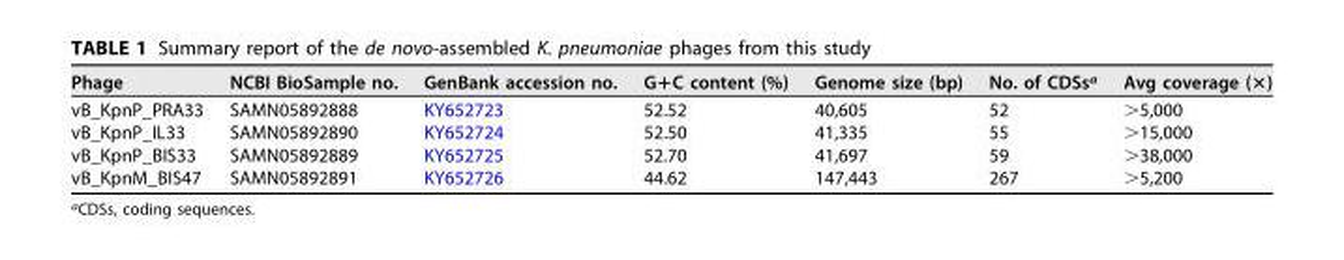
<table><thead><tr><td>Phage</td><td>NCBI BioSample no.</td><td>GenBank accession no.</td><td>G+C content (%)</td><td>Genome size (bp)</td><td>No. of CDSs<sup>a</sup></td><td>Avg coverage (×)</td></tr></thead><tbody><tr><td>vB_KpnP_PRA33</td><td>SAMN05892888</td><td>KY652723</td><td>52.52</td><td>40,605</td><td>52</td><td>&gt;5,000</td></tr><tr><td>vB_KpnP_IL33</td><td>SAMN05892890</td><td>KY652724</td><td>52.50</td><td>41,335</td><td>55</td><td>&gt;15,000</td></tr><tr><td>vB_KpnP_BIS33</td><td>SAMN05892889</td><td>KY652725</td><td>52.70</td><td>41,697</td><td>59</td><td>&gt;38,000</td></tr><tr><td>vB_KpnM_BIS47</td><td>SAMN05892891</td><td>KY652726</td><td>44.62</td><td>147,443</td><td>267</td><td>&gt;5,200</td></tr></tbody></table>